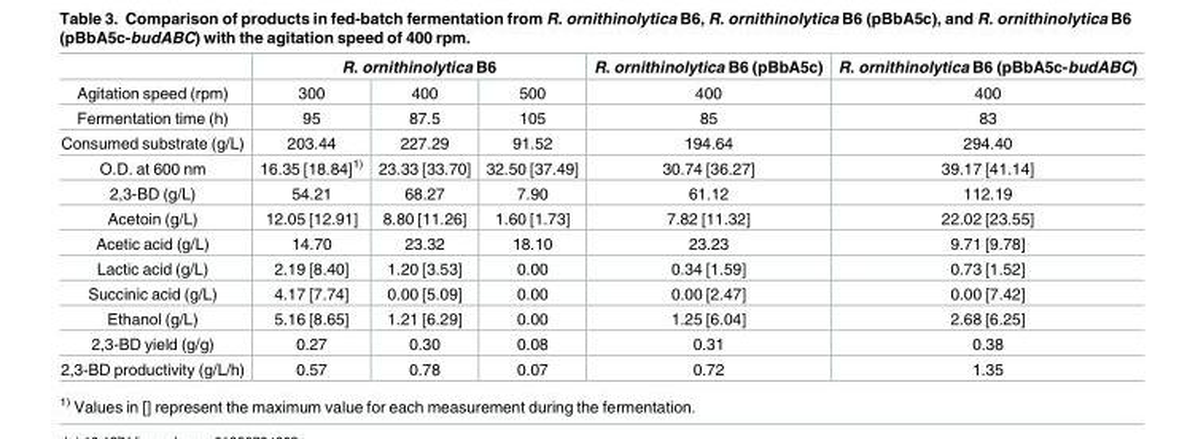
<table><thead><tr><td rowspan="2">Agitation speed (rpm)</td><td colspan="3">R. ornithinolytica B6</td><td rowspan="2">R. ornithinolytica B6 (pBbA5c) 400</td><td rowspan="2">R. ornithinolytica B6 (pBbA5c-budABC) 400</td></tr><tr><td>300</td><td>400</td><td>500</td></tr></thead><tbody><tr><td>Fermentation time (h)</td><td>95</td><td>87.5</td><td>105</td><td>85</td><td>83</td></tr><tr><td>Consumed substrate (g/L)</td><td>203.44</td><td>227.29</td><td>91.52</td><td>194.64</td><td>294.40</td></tr><tr><td>O.D. at 600 nm</td><td>16.35 [18.84]<sup>1)</sup></td><td>23.33 [33.70]</td><td>32.50 [37.49]</td><td>30.74 [36.27]</td><td>39.17 [41.14]</td></tr><tr><td>2,3-BD (g/L)</td><td>54.21</td><td>68.27</td><td>7.90</td><td>61.12</td><td>112.19</td></tr><tr><td>Acetoin (g/L)</td><td>12.05 [12.91]</td><td>8.80 [11.26]</td><td>1.60 [1.73]</td><td>7.82 [11.32]</td><td>22.02 [23.55]</td></tr><tr><td>Acetic acid (g/L)</td><td>14.70</td><td>23.32</td><td>18.10</td><td>23.23</td><td>9.71 [9.78]</td></tr><tr><td>Lactic acid (g/L)</td><td>2.19 [8.40]</td><td>1.20 [3.53]</td><td>0.00</td><td>0.34 [1.59]</td><td>0.73 [1.52]</td></tr><tr><td>Succinic acid (g/L)</td><td>4.17 [7.74]</td><td>0.00 [5.09]</td><td>0.00</td><td>0.00 [2.47]</td><td>0.00 [7.42]</td></tr><tr><td>Ethanol (g/L)</td><td>5.16 [8.65]</td><td>1.21 [6.29]</td><td>0.00</td><td>1.25 [6.04]</td><td>2.68 [6.25]</td></tr><tr><td>2,3-BD yield (g/g)</td><td>0.27</td><td>0.30</td><td>0.08</td><td>0.31</td><td>0.38</td></tr><tr><td>2,3-BD productivity (g/L/h)</td><td>0.57</td><td>0.78</td><td>0.07</td><td>0.72</td><td>1.35</td></tr></tbody></table>